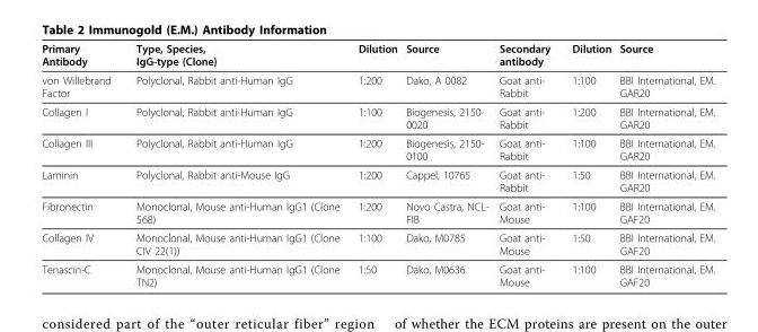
<table><thead><tr><td>Primary Antibody</td><td>Type, Species, IgG-type (Clone)</td><td>Dilution</td><td>Source</td><td>Secondary antibody</td><td>Dilution</td><td>Source</td></tr></thead><tbody><tr><td>von Willebrand Factor</td><td>Polyclonal, Rabbit anti-Human IgG</td><td>1:200</td><td>Dako, A 0082</td><td>Goat anti- Rabbit</td><td>1:100</td><td>BBI International, EM. GAR20</td></tr><tr><td>Collagen I</td><td>Polyclonal, Rabbit anti-Human IgG</td><td>1:100</td><td>Biogenesis, 2150- 0020</td><td>Goat anti- Rabbit</td><td>1:200</td><td>BBI International, EM. GAR20</td></tr><tr><td>Collagen III</td><td>Polyclonal, Rabbit anti-Human IgG</td><td>1:200</td><td>Biogenesis, 2150- 0100</td><td>Goat anti- Rabbit</td><td>1:100</td><td>BBI International, EM. GAR20</td></tr><tr><td>Laminin</td><td>Polyclonal, Rabbit anti-Mouse IgG</td><td>1:200</td><td>Cappel, 10765</td><td>Goat anti- Rabbit</td><td>1:50</td><td>BBI International, EM. GAR20</td></tr><tr><td>Fibronectin</td><td>Monoclonal, Mouse anti-Human IgG1 (Clone 568)</td><td>1:200</td><td>Novo Castra, NCL- FIB</td><td>Goat anti- Mouse</td><td>1:100</td><td>BBI International, EM. GAF20</td></tr><tr><td>Collagen IV</td><td>Monoclonal, Mouse anti-Human IgG1 (Clone CIV 22(1))</td><td>1:100</td><td>Dako, M0785</td><td>Goat anti- Mouse</td><td>1:50</td><td>BBI International, EM. GAF20</td></tr><tr><td>Tenascin-C</td><td>Monoclonal, Mouse anti-Human IgG1 (Clone TN2)</td><td>1:50</td><td>Dako, M0636</td><td>Goat anti- Mouse</td><td>1:100</td><td>BBI International, EM. GAF20</td></tr></tbody></table>